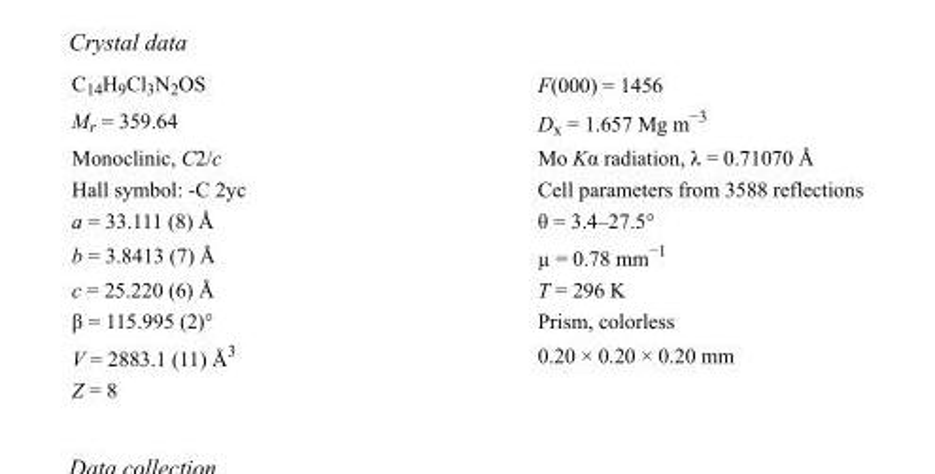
<table><tbody><tr><td>C<sub>14</sub>H<sub>9</sub>Cl<sub>3</sub>N<sub>2</sub>OS</td><td>F(000) = 1456</td></tr><tr><td>M<sub>r</sub> = 359.64</td><td>D<sub>x</sub> = 1.657 Mg m<sup>−3</sup></td></tr><tr><td>Monoclinic, C2/c</td><td>Mo Kα radiation, λ = 0.71070 Å</td></tr><tr><td>Hall symbol: -C 2yc</td><td>Cell parameters from 3588 reflections</td></tr><tr><td>a = 33.111 (8) Å</td><td>θ = 3.4–27.5°</td></tr><tr><td>b = 3.8413 (7) Å</td><td>µ = 0.78 mm<sup>−1</sup></td></tr><tr><td>c = 25.220 (6) Å</td><td>T = 296 K</td></tr><tr><td>β = 115.995 (2)°</td><td>Prism, colorless</td></tr><tr><td>V = 2883.1 (11) Å<sup>3</sup></td><td>0.20 × 0.20 × 0.20 mm</td></tr><tr><td>Z = 8</td><td></td></tr></tbody></table>